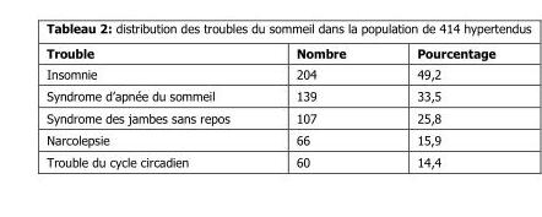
<table><thead><tr><td>Trouble</td><td>Nombre</td><td>Pourcentage</td></tr></thead><tbody><tr><td>Insomnie</td><td>204</td><td>49,2</td></tr><tr><td>Syndrome d’apnée du sommeil</td><td>139</td><td>33,5</td></tr><tr><td>Syndrome des jambes sans repos</td><td>107</td><td>25,8</td></tr><tr><td>Narcolepsie</td><td>66</td><td>15,9</td></tr><tr><td>Trouble du cycle circadien</td><td>60</td><td>14,4</td></tr></tbody></table>